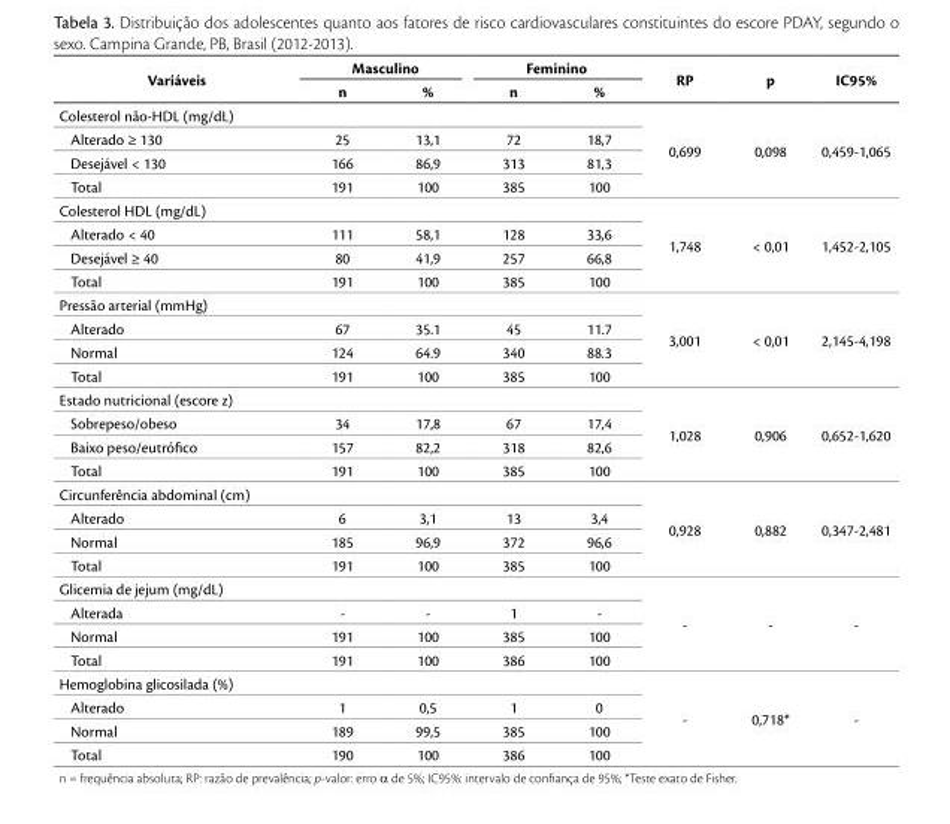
<table><thead><tr><td rowspan="2">Variáveis</td><td colspan="2">Masculino</td><td colspan="2">Feminino</td><td rowspan="2">RP</td><td rowspan="2">p</td><td rowspan="2">IC95%</td></tr><tr><td>n</td><td>%</td><td>n</td><td>%</td></tr></thead><tbody><tr><td colspan="5">Colesterol não-HDL (mg/dL)</td><td rowspan="4">0,699</td><td rowspan="4">0,098</td><td rowspan="4">0,459-1,065</td></tr><tr><td>Alterado ≥ 130</td><td>25</td><td>13,1</td><td>72</td><td>18,7</td></tr><tr><td>Desejável &lt; 130</td><td>166</td><td>86,9</td><td>313</td><td>81,3</td></tr><tr><td>Total</td><td>191</td><td>100</td><td>385</td><td>100</td></tr><tr><td colspan="5">Colesterol HDL (mg/dL)</td><td rowspan="4">1,748</td><td rowspan="4">&lt; 0,01</td><td rowspan="4">1,452-2,105</td></tr><tr><td>Alterado &lt; 40</td><td>111</td><td>58,1</td><td>128</td><td>33,6</td></tr><tr><td>Desejável ≥ 40</td><td>80</td><td>41,9</td><td>257</td><td>66,8</td></tr><tr><td>Total</td><td>191</td><td>100</td><td>385</td><td>100</td></tr><tr><td colspan="5">Pressão arterial (mmHg)</td><td rowspan="4">3,001</td><td rowspan="4">&lt; 0,01</td><td rowspan="4">2,145-4,198</td></tr><tr><td>Alterado</td><td>67</td><td>35.1</td><td>45</td><td>11.7</td></tr><tr><td>Normal</td><td>124</td><td>64.9</td><td>340</td><td>88.3</td></tr><tr><td>Total</td><td>191</td><td>100</td><td>385</td><td>100</td></tr><tr><td colspan="5">Estado nutricional (escore z)</td><td rowspan="4">1,028</td><td rowspan="4">0,906</td><td rowspan="4">0,652-1,620</td></tr><tr><td>Sobrepeso/obeso</td><td>34</td><td>17,8</td><td>67</td><td>17,4</td></tr><tr><td>Baixo peso/eutrófico</td><td>157</td><td>82,2</td><td>318</td><td>82,6</td></tr><tr><td>Total</td><td>191</td><td>100</td><td>385</td><td>100</td></tr><tr><td colspan="5">Circunferência abdominal (cm)</td><td rowspan="4">0,928</td><td rowspan="4">0,882</td><td rowspan="4">0,347-2,481</td></tr><tr><td>Alterado</td><td>6</td><td>3,1</td><td>13</td><td>3,4</td></tr><tr><td>Normal</td><td>185</td><td>96,9</td><td>372</td><td>96,6</td></tr><tr><td>Total</td><td>191</td><td>100</td><td>385</td><td>100</td></tr><tr><td colspan="5">Glicemia de jejum (mg/dL)</td><td rowspan="4">-</td><td rowspan="4">-</td><td rowspan="4">-</td></tr><tr><td>Alterada</td><td>-</td><td>-</td><td>1</td><td>-</td></tr><tr><td>Normal</td><td>191</td><td>100</td><td>385</td><td>100</td></tr><tr><td>Total</td><td>191</td><td>100</td><td>386</td><td>100</td></tr><tr><td colspan="5">Hemoglobina glicosilada (%)</td><td rowspan="4">-</td><td rowspan="4">0,718*</td><td rowspan="4">-</td></tr><tr><td>Alterado</td><td>1</td><td>0,5</td><td>1</td><td>0</td></tr><tr><td>Normal</td><td>189</td><td>99,5</td><td>385</td><td>100</td></tr><tr><td>Total</td><td>190</td><td>100</td><td>386</td><td>100</td></tr></tbody></table>